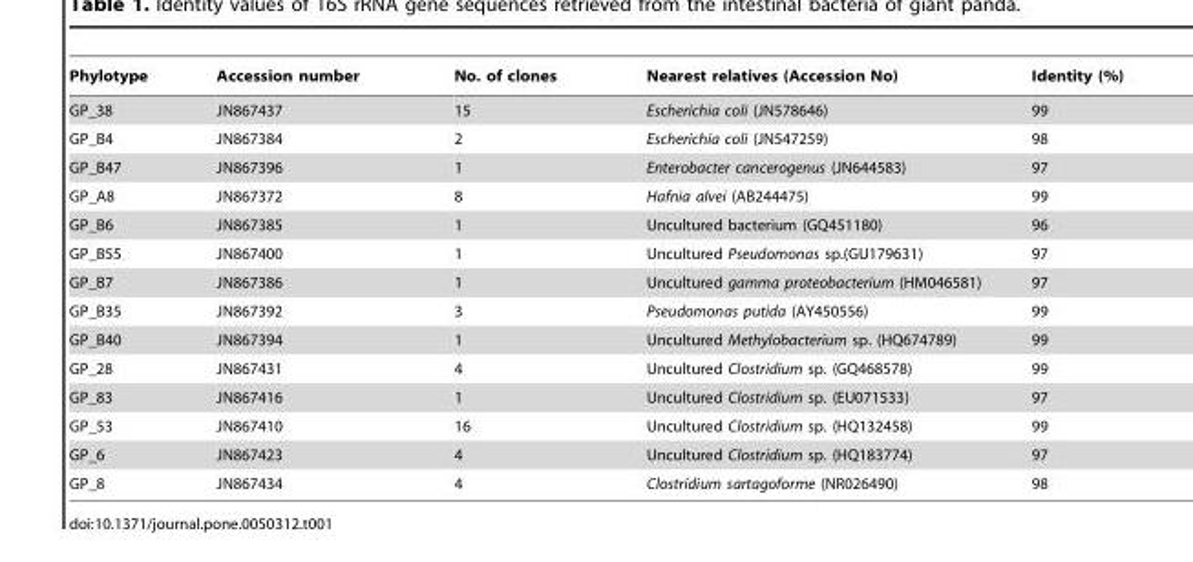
<table><thead><tr><td>Phylotype</td><td>Accession number</td><td>No. of clones</td><td>Nearest relatives (Accession No)</td><td>Identity (%)</td></tr></thead><tbody><tr><td>GP_38</td><td>JN867437</td><td>15</td><td>Escherichia coli (JN578646)</td><td>99</td></tr><tr><td>GP_B4</td><td>JN867384</td><td>2</td><td>Escherichia coli (JN547259)</td><td>98</td></tr><tr><td>GP_B47</td><td>JN867396</td><td>1</td><td>Enterobacter cancerogenus (JN644583)</td><td>97</td></tr><tr><td>GP_A8</td><td>JN867372</td><td>8</td><td>Hafnia alvei (AB244475)</td><td>99</td></tr><tr><td>GP_B6</td><td>JN867385</td><td>1</td><td>Uncultured bacterium (GQ451180)</td><td>96</td></tr><tr><td>GP_B55</td><td>JN867400</td><td>1</td><td>Uncultured Pseudomonas sp.(GU179631)</td><td>97</td></tr><tr><td>GP_B7</td><td>JN867386</td><td>1</td><td>Uncultured gamma proteobacterium (HM046581)</td><td>97</td></tr><tr><td>GP_B35</td><td>JN867392</td><td>3</td><td>Pseudomonas putida (AY450556)</td><td>99</td></tr><tr><td>GP_B40</td><td>JN867394</td><td>1</td><td>Uncultured Methylobacterium sp. (HQ674789)</td><td>99</td></tr><tr><td>GP_28</td><td>JN867431</td><td>4</td><td>Uncultured Clostridium sp. (GQ468578)</td><td>99</td></tr><tr><td>GP_83</td><td>JN867416</td><td>1</td><td>Uncultured Clostridium sp. (EU071533)</td><td>97</td></tr><tr><td>GP_53</td><td>JN867410</td><td>16</td><td>Uncultured Clostridium sp. (HQ132458)</td><td>99</td></tr><tr><td>GP_6</td><td>JN867423</td><td>4</td><td>Uncultured Clostridium sp. (HQ183774)</td><td>97</td></tr><tr><td>GP_8</td><td>JN867434</td><td>4</td><td>Clostridium sartagoforme (NR026490)</td><td>98</td></tr></tbody></table>